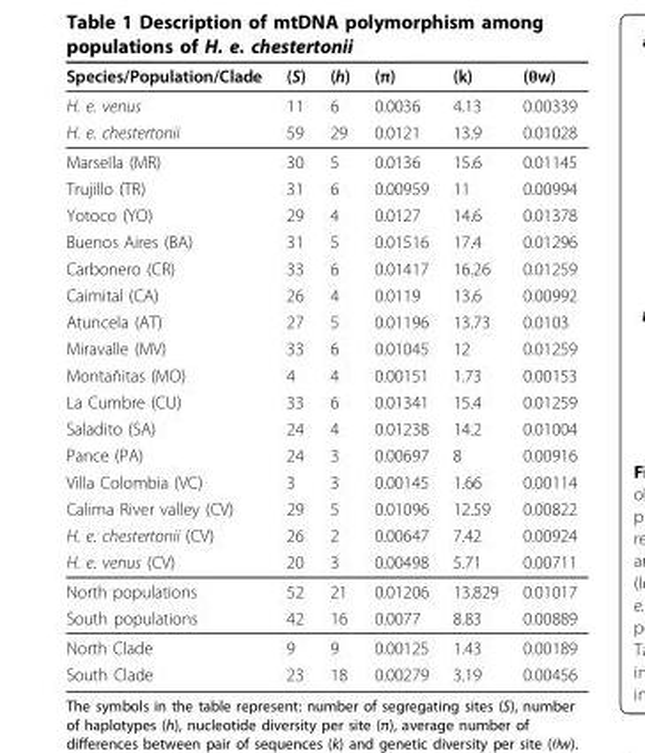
<table><thead><tr><td>Species/Population/Clade</td><td>(S)</td><td>(h)</td><td>(π)</td><td>(k)</td><td>(θw)</td></tr></thead><tbody><tr><td>H. e. venus</td><td>11</td><td>6</td><td>0.0036</td><td>4.13</td><td>0.00339</td></tr><tr><td>H. e. chestertonii</td><td>59</td><td>29</td><td>0.0121</td><td>13.9</td><td>0.01028</td></tr><tr><td>Marsella (MR)</td><td>30</td><td>5</td><td>0.0136</td><td>15.6</td><td>0.01145</td></tr><tr><td>Trujillo (TR)</td><td>31</td><td>6</td><td>0.00959</td><td>11</td><td>0.00994</td></tr><tr><td>Yotoco (YO)</td><td>29</td><td>4</td><td>0.0127</td><td>14.6</td><td>0.01378</td></tr><tr><td>Buenos Aires (BA)</td><td>31</td><td>5</td><td>0.01516</td><td>17.4</td><td>0.01296</td></tr><tr><td>Carbonero (CR)</td><td>33</td><td>6</td><td>0.01417</td><td>16.26</td><td>0.01259</td></tr><tr><td>Caimital (CA)</td><td>26</td><td>4</td><td>0.0119</td><td>13.6</td><td>0.00992</td></tr><tr><td>Atuncela (AT)</td><td>27</td><td>5</td><td>0.01196</td><td>13.73</td><td>0.0103</td></tr><tr><td>Miravalle (MV)</td><td>33</td><td>6</td><td>0.01045</td><td>12</td><td>0.01259</td></tr><tr><td>Montañitas (MO)</td><td>4</td><td>4</td><td>0.00151</td><td>1.73</td><td>0.00153</td></tr><tr><td>La Cumbre (CU)</td><td>33</td><td>6</td><td>0.01341</td><td>15.4</td><td>0.01259</td></tr><tr><td>Saladito (SA)</td><td>24</td><td>4</td><td>0.01238</td><td>14.2</td><td>0.01004</td></tr><tr><td>Pance (PA)</td><td>24</td><td>3</td><td>0.00697</td><td>8</td><td>0.00916</td></tr><tr><td>Villa Colombia (VC)</td><td>3</td><td>3</td><td>0.00145</td><td>1.66</td><td>0.00114</td></tr><tr><td>Calima River valley (CV)</td><td>29</td><td>5</td><td>0.01096</td><td>12.59</td><td>0.00822</td></tr><tr><td>H. e. chestertonii (CV)</td><td>26</td><td>2</td><td>0.00647</td><td>7.42</td><td>0.00924</td></tr><tr><td>H. e. venus (CV)</td><td>20</td><td>3</td><td>0.00498</td><td>5.71</td><td>0.00711</td></tr><tr><td>North populations</td><td>52</td><td>21</td><td>0.01206</td><td>13.829</td><td>0.01017</td></tr><tr><td>South populations</td><td>42</td><td>16</td><td>0.0077</td><td>8.83</td><td>0.00889</td></tr><tr><td>North Clade</td><td>9</td><td>9</td><td>0.00125</td><td>1.43</td><td>0.00189</td></tr><tr><td>South Clade</td><td>23</td><td>18</td><td>0.00279</td><td>3.19</td><td>0.00456</td></tr></tbody></table>